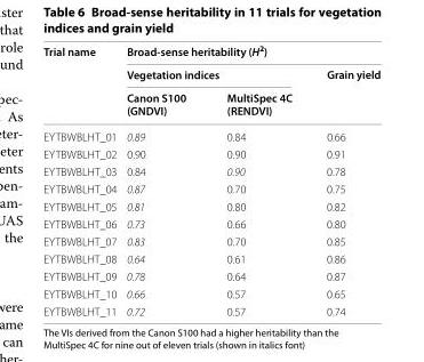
<table><thead><tr><td rowspan="3">Trial name</td><td colspan="3">Broad‑sense heritability (H<sup>2</sup>)</td></tr><tr><td colspan="2">Vegetation indices</td><td rowspan="2">Grain yield</td></tr><tr><td>Canon S100 (GNDVI)</td><td>MultiSpec 4C (RENDVI)</td></tr></thead><tbody><tr><td>EYTBWBLHT_01</td><td>0.89</td><td>0.84</td><td>0.66</td></tr><tr><td>EYTBWBLHT_02</td><td>0.90</td><td>0.90</td><td>0.91</td></tr><tr><td>EYTBWBLHT_03</td><td>0.84</td><td>0.90</td><td>0.78</td></tr><tr><td>EYTBWBLHT_04</td><td>0.87</td><td>0.70</td><td>0.75</td></tr><tr><td>EYTBWBLHT_05</td><td>0.81</td><td>0.80</td><td>0.82</td></tr><tr><td>EYTBWBLHT_06</td><td>0.73</td><td>0.66</td><td>0.80</td></tr><tr><td>EYTBWBLHT_07</td><td>0.83</td><td>0.70</td><td>0.85</td></tr><tr><td>EYTBWBLHT_08</td><td>0.64</td><td>0.61</td><td>0.86</td></tr><tr><td>EYTBWBLHT_09</td><td>0.78</td><td>0.64</td><td>0.87</td></tr><tr><td>EYTBWBLHT_10</td><td>0.66</td><td>0.57</td><td>0.65</td></tr><tr><td>EYTBWBLHT_11</td><td>0.72</td><td>0.57</td><td>0.74</td></tr></tbody></table>